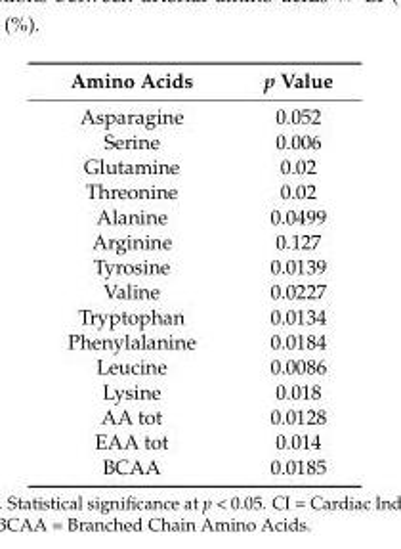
<table><thead><tr><td>Amino Acids</td><td>p Value</td></tr></thead><tbody><tr><td>Asparagine</td><td>0.052</td></tr><tr><td>Serine</td><td>0.006</td></tr><tr><td>Glutamine</td><td>0.02</td></tr><tr><td>Threonine</td><td>0.02</td></tr><tr><td>Alanine</td><td>0.0499</td></tr><tr><td>Arginine</td><td>0.127</td></tr><tr><td>Tyrosine</td><td>0.0139</td></tr><tr><td>Valine</td><td>0.0227</td></tr><tr><td>Tryptophan</td><td>0.0134</td></tr><tr><td>Phenylalanine</td><td>0.0184</td></tr><tr><td>Leucine</td><td>0.0086</td></tr><tr><td>Lysine</td><td>0.018</td></tr><tr><td>AA tot</td><td>0.0128</td></tr><tr><td>EAA tot</td><td>0.014</td></tr><tr><td>BCAA</td><td>0.0185</td></tr></tbody></table>